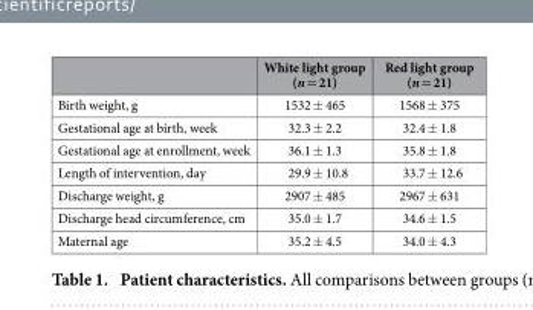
<table><thead><tr><td></td><td>White light group (n = 21)</td><td>Red light group (n = 21)</td></tr></thead><tbody><tr><td>Birth weight, g</td><td>1532 ± 465</td><td>1568 ± 375</td></tr><tr><td>Gestational age at birth, week</td><td>32.3 ± 2.2</td><td>32.4 ± 1.8</td></tr><tr><td>Gestational age at enrollment, week</td><td>36.1 ± 1.3</td><td>35.8 ± 1.8</td></tr><tr><td>Length of intervention, day</td><td>29.9 ± 10.8</td><td>33.7 ± 12.6</td></tr><tr><td>Discharge weight, g</td><td>2907 ± 485</td><td>2967 ± 631</td></tr><tr><td>Discharge head circumference, cm</td><td>35.0 ± 1.7</td><td>34.6 ± 1.5</td></tr><tr><td>Maternal age</td><td>35.2 ± 4.5</td><td>34.0 ± 4.3</td></tr></tbody></table>